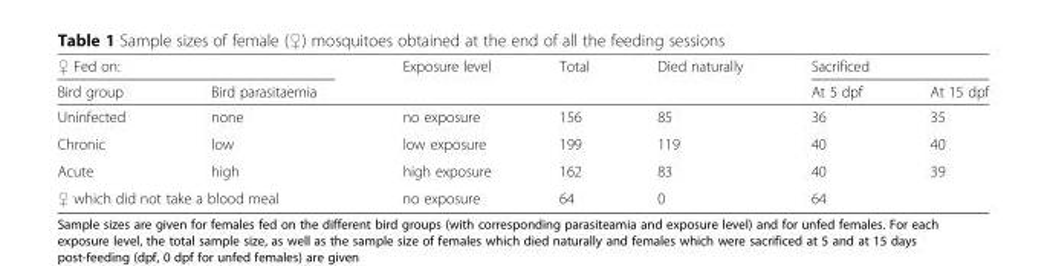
<table><thead><tr><td colspan="2">♀ Fed on:</td><td rowspan="2">Exposure level</td><td rowspan="2">Total</td><td rowspan="2">Died naturally</td><td colspan="2">Sacrificed</td></tr><tr><td>Bird group</td><td>Bird parasitaemia</td><td>At 5 dpf</td><td>At 15 dpf</td></tr></thead><tbody><tr><td>Uninfected</td><td>none</td><td>no exposure</td><td>156</td><td>85</td><td>36</td><td>35</td></tr><tr><td>Chronic</td><td>low</td><td>low exposure</td><td>199</td><td>119</td><td>40</td><td>40</td></tr><tr><td>Acute</td><td>high</td><td>high exposure</td><td>162</td><td>83</td><td>40</td><td>39</td></tr><tr><td colspan="2">♀ which did not take a blood meal</td><td>no exposure</td><td>64</td><td>0</td><td colspan="2">64</td></tr></tbody></table>